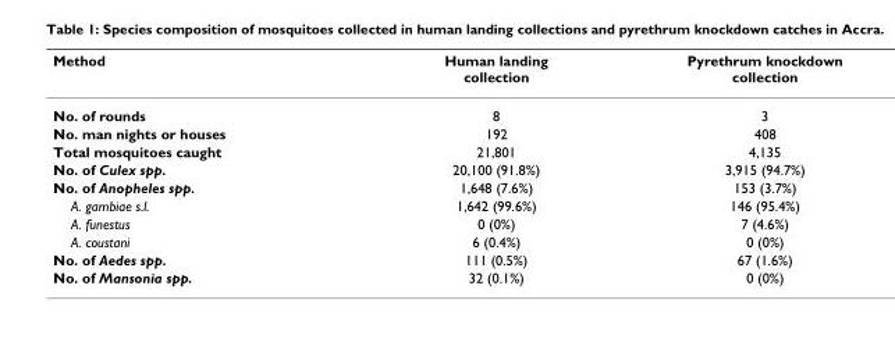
<table><thead><tr><td>Method</td><td>Human landing collection</td><td>Pyrethrum knockdown collection</td></tr></thead><tbody><tr><td>No. of rounds</td><td>8</td><td>3</td></tr><tr><td>No. man nights or houses</td><td>192</td><td>408</td></tr><tr><td>Total mosquitoes caught</td><td>21,801</td><td>4,135</td></tr><tr><td>No. of Culex spp.</td><td>20,100 (91.8%)</td><td>3,915 (94.7%)</td></tr><tr><td>No. of Anopheles spp.</td><td>1,648 (7.6%)</td><td>153 (3.7%)</td></tr><tr><td>A. gambiae s.l.</td><td>1,642 (99.6%)</td><td>146 (95.4%)</td></tr><tr><td>A. funestus</td><td>0 (0%)</td><td>7 (4.6%)</td></tr><tr><td>A. coustani</td><td>6 (0.4%)</td><td>0 (0%)</td></tr><tr><td>No. of Aedes spp.</td><td>111 (0.5%)</td><td>67 (1.6%)</td></tr><tr><td>No. of Mansonia spp.</td><td>32 (0.1%)</td><td>0 (0%)</td></tr></tbody></table>